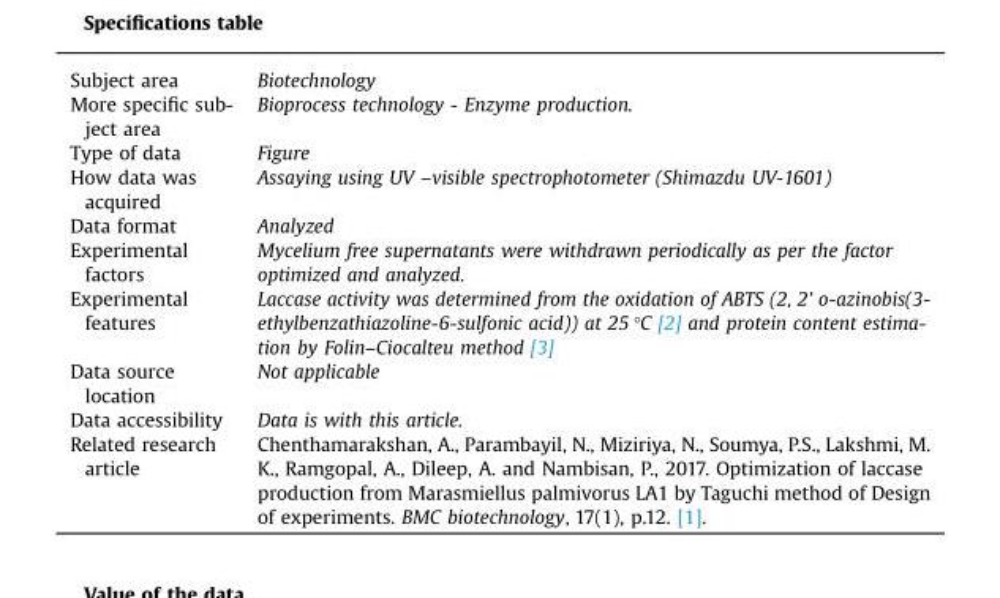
<table><tbody><tr><td>Subject area</td><td>Biotechnology</td></tr><tr><td>More specific sub- ject area</td><td>Bioprocess technology - Enzyme production.</td></tr><tr><td>Type of data</td><td>Figure</td></tr><tr><td>How data was acquired</td><td>Assaying using UV –visible spectrophotometer (Shimazdu UV-1601)</td></tr><tr><td>Data format</td><td>Analyzed</td></tr><tr><td>Experimental factors</td><td>Mycelium free supernatants were withdrawn periodically as per the factor optimized and analyzed.</td></tr><tr><td>Experimental features</td><td>Laccase activity was determined from the oxidation of ABTS (2, 2’ o-azinobis(3- ethylbenzathiazoline-6-sulfonic acid)) at 25 °C [2] and protein content estima- tion by Folin–Ciocalteu method [3]</td></tr><tr><td>Data source location</td><td>Not applicable</td></tr><tr><td>Data accessibility</td><td>Data is with this article.</td></tr><tr><td>Related research article</td><td>Chenthamarakshan, A., Parambayil, N., Miziriya, N., Soumya, P.S., Lakshmi, M. K., Ramgopal, A., Dileep, A. and Nambisan, P., 2017. Optimization of laccase production from Marasmiellus palmivorus LA1 by Taguchi method of Design of experiments. BMC biotechnology, 17(1), p.12. [1].</td></tr></tbody></table>